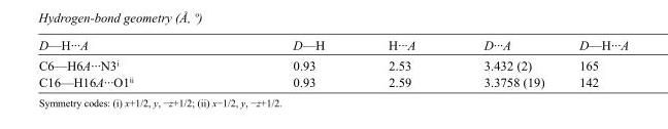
<table><tbody><tr><td>D—H···A</td><td>D—H</td><td>H···A</td><td>D···A</td><td>D—H···A</td></tr><tr><td>C6—H6A···N3<sup>i</sup></td><td>0.93</td><td>2.53</td><td>3.432 (2)</td><td>165</td></tr><tr><td>C16—H16A···O1<sup>ii</sup></td><td>0.93</td><td>2.59</td><td>3.3758 (19)</td><td>142</td></tr></tbody></table>